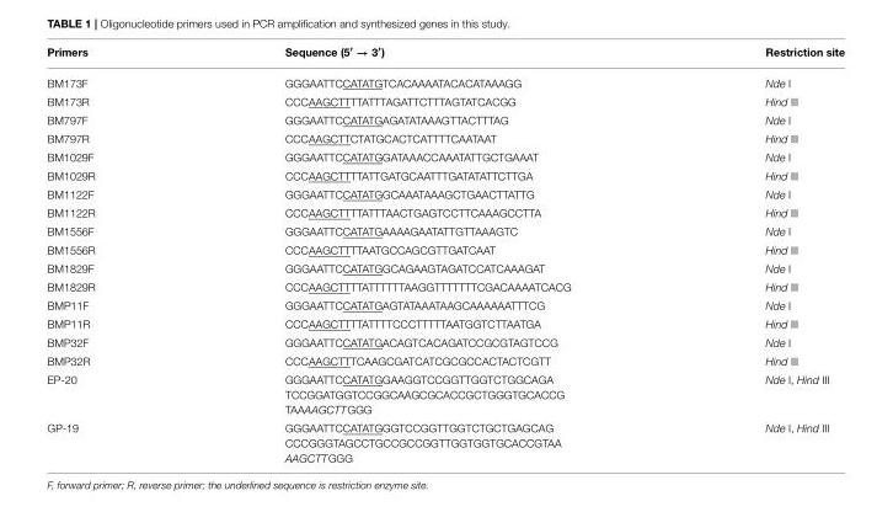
<table><thead><tr><td>Primers</td><td>Sequence (5<sup>′</sup> → 3<sup>′</sup>)</td><td>Restriction site</td></tr></thead><tbody><tr><td>BM173F</td><td>GGGAATTCCATATGTCACAAAATACACATAAAGG</td><td>Nde I</td></tr><tr><td>BM173R</td><td>CCCAAGCTTTTATTTAGATTCTTTAGTATCACGG</td><td>Hind III</td></tr><tr><td>BM797F</td><td>GGGAATTCCATATGAGATATAAAGTTACTTTAG</td><td>Nde I</td></tr><tr><td>BM797R</td><td>CCCAAGCTTCTATGCACTCATTTTCAATAAT</td><td>Hind III</td></tr><tr><td>BM1029F</td><td>GGGAATTCCATATGGATAAACCAAATATTGCTGAAAT</td><td>Nde I</td></tr><tr><td>BM1029R</td><td>CCCAAGCTTTTATTGATGCAATTTGATATATTCTTGA</td><td>Hind III</td></tr><tr><td>BM1122F</td><td>GGGAATTCCATATGGCAAATAAAGCTGAACTTATTG</td><td>Nde I</td></tr><tr><td>BM1122R</td><td>CCCAAGCTTTTATTTAACTGAGTCCTTCAAAGCCTTA</td><td>Hind III</td></tr><tr><td>BM1556F</td><td>GGGAATTCCATATGAAAAGAATATTGTTAAAGTC</td><td>Nde I</td></tr><tr><td>BM1556R</td><td>CCCAAGCTTTTAATGCCAGCGTTGATCAAT</td><td>Hind III</td></tr><tr><td>BM1829F</td><td>GGGAATTCCATATGGCAGAAGTAGATCCATCAAAGAT</td><td>Nde I</td></tr><tr><td>BM1829R</td><td>CCCAAGCTTTTATTTTTTAAGGTTTTTTTCGACAAAATCACG</td><td>Hind III</td></tr><tr><td>BMP11F</td><td>GGGAATTCCATATGAGTATAAATAAGCAAAAAATTTCG</td><td>Nde I</td></tr><tr><td>BMP11R</td><td>CCCAAGCTTTTATTTTCCCTTTTTAATGGTCTTAATGA</td><td>Hind III</td></tr><tr><td>BMP32F</td><td>GGGAATTCCATATGACAGTCACAGATCCGCGTAGTCCG</td><td>Nde I</td></tr><tr><td>BMP32R</td><td>CCCAAGCTTTCAAGCGATCATCGCGCCACTACTCGTT</td><td>Hind III</td></tr><tr><td>EP-20</td><td>GGGAATTCCATATGGAAGGTCCGGTTGGTCTGGCAGA TCCGGATGGTCCGGCAAGCGCACCGCTGGGTGCACCG TAAAAGCTTGGG</td><td>Nde I, Hind III</td></tr><tr><td>GP-19</td><td>GGGAATTCCATATGGGTCCGGTTGGTCTGCTGAGCAG CCCGGGTAGCCTGCCGCCGGTTGGTGGTGCACCGTAA AAGCTTGGG</td><td>Nde I, Hind III</td></tr></tbody></table>